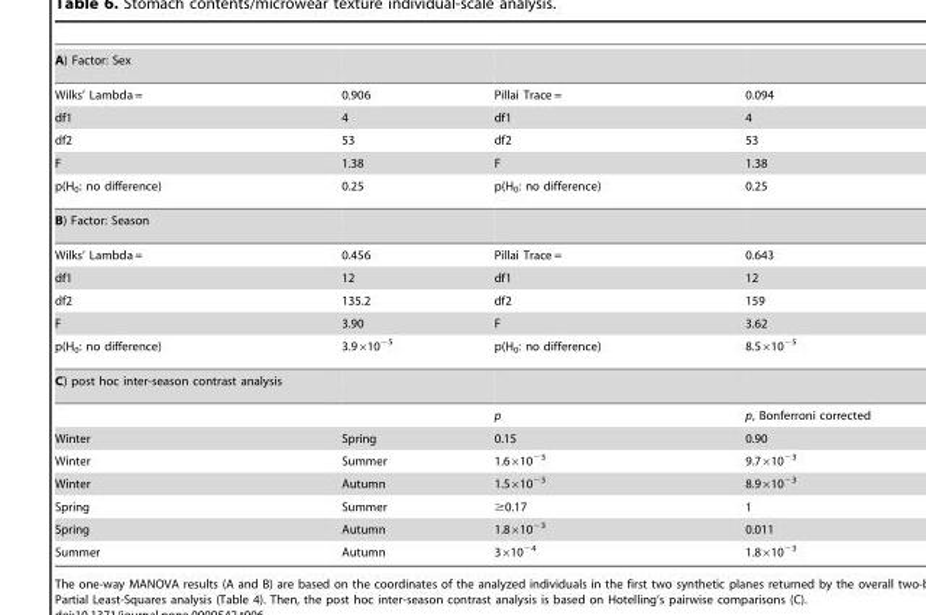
<table><tbody><tr><td colspan="4">A) Factor: Sex</td></tr><tr><td>Wilks’ Lambda =</td><td>0.906</td><td>Pillai Trace =</td><td>0.094</td></tr><tr><td>df1</td><td>4</td><td>df1</td><td>4</td></tr><tr><td>df2</td><td>53</td><td>df2</td><td>53</td></tr><tr><td>F</td><td>1.38</td><td>F</td><td>1.38</td></tr><tr><td>p(H<sub>0</sub>: no difference)</td><td>0.25</td><td>p(H<sub>0</sub>: no difference)</td><td>0.25</td></tr><tr><td colspan="4">B) Factor: Season</td></tr><tr><td>Wilks’ Lambda =</td><td>0.456</td><td>Pillai Trace =</td><td>0.643</td></tr><tr><td>df1</td><td>12</td><td>df1</td><td>12</td></tr><tr><td>df2</td><td>135.2</td><td>df2</td><td>159</td></tr><tr><td>F</td><td>3.90</td><td>F</td><td>3.62</td></tr><tr><td>p(H<sub>0</sub>: no difference)</td><td>3.9×10<sup>−5</sup></td><td>p(H<sub>0</sub>: no difference)</td><td>8.5×10<sup>−5</sup></td></tr><tr><td colspan="4">C) post hoc inter-season contrast analysis</td></tr><tr><td></td><td></td><td>p</td><td>p, Bonferroni corrected</td></tr><tr><td>Winter</td><td>Spring</td><td>0.15</td><td>0.90</td></tr><tr><td>Winter</td><td>Summer</td><td>1.6×10<sup>−3</sup></td><td>9.7×10<sup>−3</sup></td></tr><tr><td>Winter</td><td>Autumn</td><td>1.5×10<sup>−3</sup></td><td>8.9×10<sup>−3</sup></td></tr><tr><td>Spring</td><td>Summer</td><td>≥0.17</td><td>1</td></tr><tr><td>Spring</td><td>Autumn</td><td>1.8×10<sup>−3</sup></td><td>0.011</td></tr><tr><td>Summer</td><td>Autumn</td><td>3×10<sup>−4</sup></td><td>1.8×10<sup>−3</sup></td></tr></tbody></table>